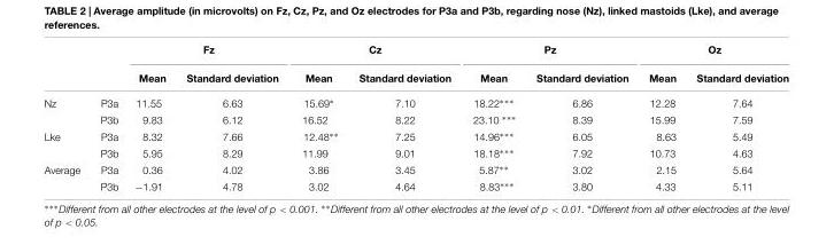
<table><thead><tr><td rowspan="2"></td><td rowspan="2"></td><td colspan="2">Fz</td><td colspan="2">Cz</td><td colspan="2">Pz</td><td colspan="2">Oz</td></tr><tr><td>Mean</td><td>Standard deviation</td><td>Mean</td><td>Standard deviation</td><td>Mean</td><td>Standard deviation</td><td>Mean</td><td>Standard deviation</td></tr></thead><tbody><tr><td rowspan="2">Nz</td><td>P3a</td><td>11.55</td><td>6.63</td><td>15.69∗</td><td>7.10</td><td>18.22∗∗∗</td><td>6.86</td><td>12.28</td><td>7.64</td></tr><tr><td>P3b</td><td>9.83</td><td>6.12</td><td>16.52</td><td>8.22</td><td>23.10 ∗∗∗</td><td>8.39</td><td>15.99</td><td>7.59</td></tr><tr><td rowspan="2">Lke</td><td>P3a</td><td>8.32</td><td>7.66</td><td>12.48∗∗</td><td>7.25</td><td>14.96∗∗∗</td><td>6.05</td><td>8.63</td><td>5.49</td></tr><tr><td>P3b</td><td>5.95</td><td>8.29</td><td>11.99</td><td>9.01</td><td>18.18∗∗∗</td><td>7.92</td><td>10.73</td><td>4.63</td></tr><tr><td rowspan="2">Average</td><td>P3a</td><td>0.36</td><td>4.02</td><td>3.86</td><td>3.45</td><td>5.87∗∗</td><td>3.02</td><td>2.15</td><td>5.64</td></tr><tr><td>P3b</td><td>−1.91</td><td>4.78</td><td>3.02</td><td>4.64</td><td>8.83∗∗∗</td><td>3.80</td><td>4.33</td><td>5.11</td></tr></tbody></table>